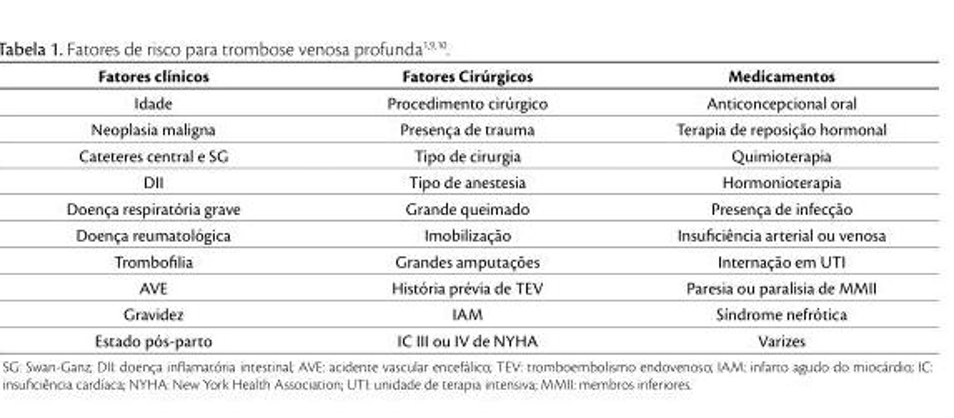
<table><thead><tr><td>Fatores clínicos</td><td>Fatores Cirúrgicos</td><td>Medicamentos</td></tr></thead><tbody><tr><td>Idade</td><td>Procedimento cirúrgico</td><td>Anticoncepcional oral</td></tr><tr><td>Neoplasia maligna</td><td>Presença de trauma</td><td>Terapia de reposição hormonal</td></tr><tr><td>Cateteres central e SG</td><td>Tipo de cirurgia</td><td>Quimioterapia</td></tr><tr><td>DII</td><td>Tipo de anestesia</td><td>Hormonioterapia</td></tr><tr><td>Doença respiratória grave</td><td>Grande queimado</td><td>Presença de infecção</td></tr><tr><td>Doença reumatológica</td><td>Imobilização</td><td>Insuficiência arterial ou venosa</td></tr><tr><td>Trombofilia</td><td>Grandes amputações</td><td>Internação em UTI</td></tr><tr><td>AVE</td><td>História prévia de TEV</td><td>Paresia ou paralisia de MMII</td></tr><tr><td>Gravidez</td><td>IAM</td><td>Síndrome nefrótica</td></tr><tr><td>Estado pós-parto</td><td>IC III ou IV de NYHA</td><td>Varizes</td></tr></tbody></table>